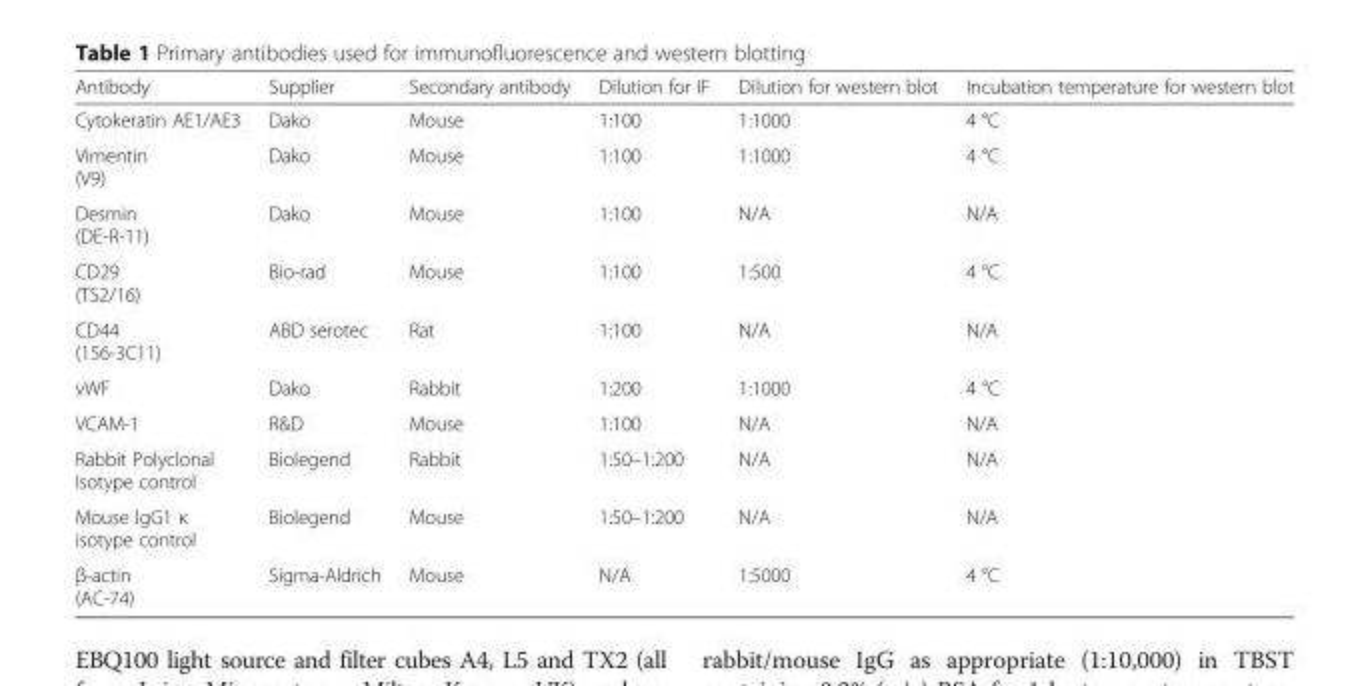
<table><thead><tr><td>Antibody</td><td>Supplier</td><td>Secondary antibody</td><td>Dilution for IF</td><td>Dilution for western blot</td><td>Incubation temperature for western blot</td></tr></thead><tbody><tr><td>Cytokeratin AE1/AE3</td><td>Dako</td><td>Mouse</td><td>1:100</td><td>1:1000</td><td>4 °C</td></tr><tr><td>Vimentin (V9)</td><td>Dako</td><td>Mouse</td><td>1:100</td><td>1:1000</td><td>4 °C</td></tr><tr><td>Desmin (DE-R-11)</td><td>Dako</td><td>Mouse</td><td>1:100</td><td>N/A</td><td>N/A</td></tr><tr><td>CD29 (TS2/16)</td><td>Bio-rad</td><td>Mouse</td><td>1:100</td><td>1:500</td><td>4 °C</td></tr><tr><td>CD44 (156-3C11)</td><td>ABD serotec</td><td>Rat</td><td>1:100</td><td>N/A</td><td>N/A</td></tr><tr><td>vWF</td><td>Dako</td><td>Rabbit</td><td>1:200</td><td>1:1000</td><td>4 °C</td></tr><tr><td>VCAM-1</td><td>R&amp;D</td><td>Mouse</td><td>1:100</td><td>N/A</td><td>N/A</td></tr><tr><td>Rabbit Polyclonal Isotype control</td><td>Biolegend</td><td>Rabbit</td><td>1:50–1:200</td><td>N/A</td><td>N/A</td></tr><tr><td>Mouse IgG1 κ isotype control</td><td>Biolegend</td><td>Mouse</td><td>1:50–1:200</td><td>N/A</td><td>N/A</td></tr><tr><td>β-actin (AC-74)</td><td>Sigma-Aldrich</td><td>Mouse</td><td>N/A</td><td>1:5000</td><td>4 °C</td></tr></tbody></table>